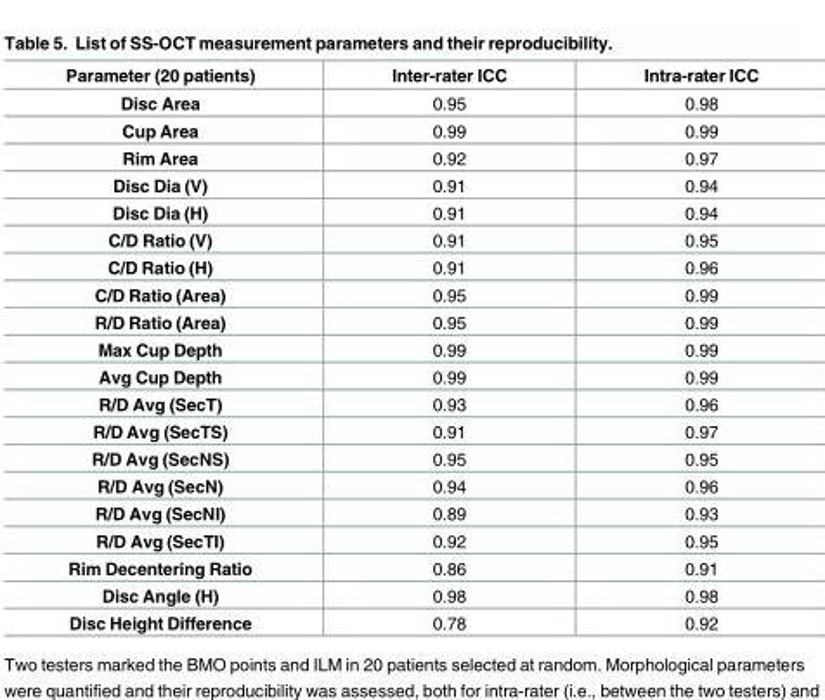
<table><thead><tr><td>Parameter (20 patients)</td><td>Inter-rater ICC</td><td>Intra-rater ICC</td></tr></thead><tbody><tr><td>Disc Area</td><td>0.95</td><td>0.98</td></tr><tr><td>Cup Area</td><td>0.99</td><td>0.99</td></tr><tr><td>Rim Area</td><td>0.92</td><td>0.97</td></tr><tr><td>Disc Dia (V)</td><td>0.91</td><td>0.94</td></tr><tr><td>Disc Dia (H)</td><td>0.91</td><td>0.94</td></tr><tr><td>C/D Ratio (V)</td><td>0.91</td><td>0.95</td></tr><tr><td>C/D Ratio (H)</td><td>0.91</td><td>0.96</td></tr><tr><td>C/D Ratio (Area)</td><td>0.95</td><td>0.99</td></tr><tr><td>R/D Ratio (Area)</td><td>0.95</td><td>0.99</td></tr><tr><td>Max Cup Depth</td><td>0.99</td><td>0.99</td></tr><tr><td>Avg Cup Depth</td><td>0.99</td><td>0.99</td></tr><tr><td>R/D Avg (SecT)</td><td>0.93</td><td>0.96</td></tr><tr><td>R/D Avg (SecTS)</td><td>0.91</td><td>0.97</td></tr><tr><td>R/D Avg (SecNS)</td><td>0.95</td><td>0.95</td></tr><tr><td>R/D Avg (SecN)</td><td>0.94</td><td>0.96</td></tr><tr><td>R/D Avg (SecNI)</td><td>0.89</td><td>0.93</td></tr><tr><td>R/D Avg (SecTI)</td><td>0.92</td><td>0.95</td></tr><tr><td>Rim Decentering Ratio</td><td>0.86</td><td>0.91</td></tr><tr><td>Disc Angle (H)</td><td>0.98</td><td>0.98</td></tr><tr><td>Disc Height Difference</td><td>0.78</td><td>0.92</td></tr></tbody></table>